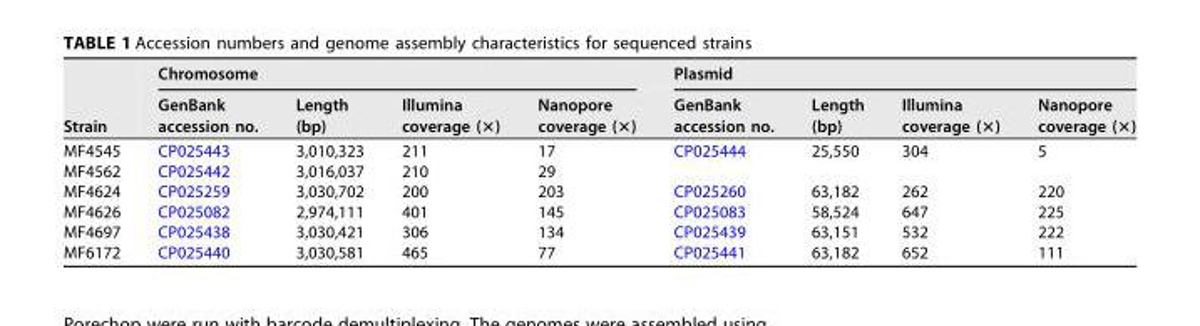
<table><thead><tr><td rowspan="2">Strain</td><td colspan="4">Chromosome</td><td colspan="4">Plasmid</td></tr><tr><td>GenBank accession no.</td><td>Length (bp)</td><td>Illumina coverage (×)</td><td>Nanopore coverage (×)</td><td>GenBank accession no.</td><td>Length (bp)</td><td>Illumina coverage (×)</td><td>Nanopore coverage (×)</td></tr></thead><tbody><tr><td>MF4545</td><td>CP025443</td><td>3,010,323</td><td>211</td><td>17</td><td>CP025444</td><td>25,550</td><td>304</td><td>5</td></tr><tr><td>MF4562</td><td>CP025442</td><td>3,016,037</td><td>210</td><td>29</td><td></td><td></td><td></td><td></td></tr><tr><td>MF4624</td><td>CP025259</td><td>3,030,702</td><td>200</td><td>203</td><td>CP025260</td><td>63,182</td><td>262</td><td>220</td></tr><tr><td>MF4626</td><td>CP025082</td><td>2,974,111</td><td>401</td><td>145</td><td>CP025083</td><td>58,524</td><td>647</td><td>225</td></tr><tr><td>MF4697</td><td>CP025438</td><td>3,030,421</td><td>306</td><td>134</td><td>CP025439</td><td>63,151</td><td>532</td><td>222</td></tr><tr><td>MF6172</td><td>CP025440</td><td>3,030,581</td><td>465</td><td>77</td><td>CP025441</td><td>63,182</td><td>652</td><td>111</td></tr></tbody></table>